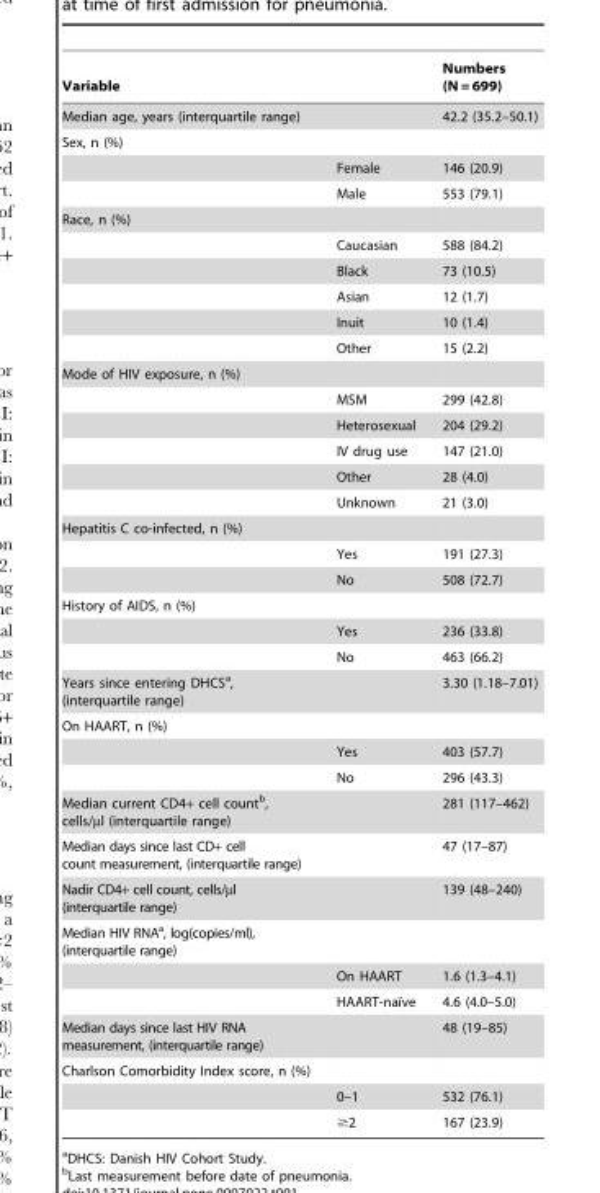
<table><thead><tr><td>Variable</td><td></td><td>Numbers (N = 699)</td></tr></thead><tbody><tr><td>Median age, years (interquartile range)</td><td></td><td>42.2 (35.2–50.1)</td></tr><tr><td colspan="3">Sex, n (%)</td></tr><tr><td></td><td>Female</td><td>146 (20.9)</td></tr><tr><td></td><td>Male</td><td>553 (79.1)</td></tr><tr><td colspan="3">Race, n (%)</td></tr><tr><td></td><td>Caucasian</td><td>588 (84.2)</td></tr><tr><td></td><td>Black</td><td>73 (10.5)</td></tr><tr><td></td><td>Asian</td><td>12 (1.7)</td></tr><tr><td></td><td>Inuit</td><td>10 (1.4)</td></tr><tr><td></td><td>Other</td><td>15 (2.2)</td></tr><tr><td colspan="3">Mode of HIV exposure, n (%)</td></tr><tr><td></td><td>MSM</td><td>299 (42.8)</td></tr><tr><td></td><td>Heterosexual</td><td>204 (29.2)</td></tr><tr><td></td><td>IV drug use</td><td>147 (21.0)</td></tr><tr><td></td><td>Other</td><td>28 (4.0)</td></tr><tr><td></td><td>Unknown</td><td>21 (3.0)</td></tr><tr><td colspan="3">Hepatitis C co-infected, n (%)</td></tr><tr><td></td><td>Yes</td><td>191 (27.3)</td></tr><tr><td></td><td>No</td><td>508 (72.7)</td></tr><tr><td colspan="3">History of AIDS, n (%)</td></tr><tr><td></td><td>Yes</td><td>236 (33.8)</td></tr><tr><td></td><td>No</td><td>463 (66.2)</td></tr><tr><td>Years since entering DHCS<sup>a</sup>, (interquartile range)</td><td></td><td>3.30 (1.18–7.01)</td></tr><tr><td colspan="3">On HAART, n (%)</td></tr><tr><td></td><td>Yes</td><td>403 (57.7)</td></tr><tr><td></td><td>No</td><td>296 (43.3)</td></tr><tr><td>Median current CD4+ cell count<sup>b</sup>, cells/µl (interquartile range)</td><td></td><td>281 (117–462)</td></tr><tr><td>Median days since last CD+ cell count measurement, (interquartile range)</td><td></td><td>47 (17–87)</td></tr><tr><td>Nadir CD4+ cell count, cells/µl (interquartile range)</td><td></td><td>139 (48–240)</td></tr><tr><td colspan="3">Median HIV RNA<sup>a</sup>, log(copies/ml), (interquartile range)</td></tr><tr><td></td><td>On HAART</td><td>1.6 (1.3–4.1)</td></tr><tr><td></td><td>HAART-naı¨ve</td><td>4.6 (4.0–5.0)</td></tr><tr><td>Median days since last HIV RNA measurement, (interquartile range)</td><td></td><td>48 (19–85)</td></tr><tr><td colspan="3">Charlson Comorbidity Index score, n (%)</td></tr><tr><td></td><td>0–1</td><td>532 (76.1)</td></tr><tr><td></td><td>≥2</td><td>167 (23.9)</td></tr></tbody></table>